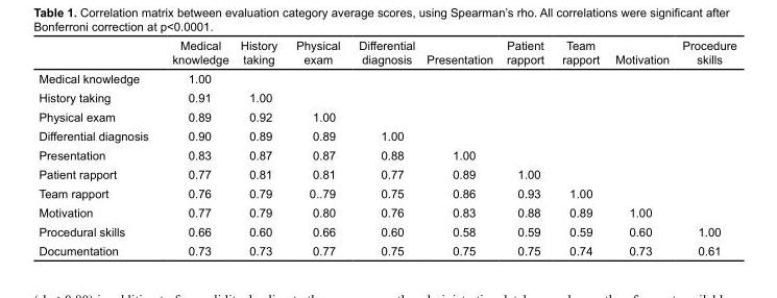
<table><thead><tr><td></td><td>Medical knowledge</td><td>History taking</td><td>Physical exam</td><td>Differential diagnosis</td><td>Presentation</td><td>Patient rapport</td><td>Team rapport</td><td>Motivation</td><td>Procedure skills</td></tr></thead><tbody><tr><td>Medical knowledge</td><td>1.00</td><td></td><td></td><td></td><td></td><td></td><td></td><td></td><td></td></tr><tr><td>History taking</td><td>0.91</td><td>1.00</td><td></td><td></td><td></td><td></td><td></td><td></td><td></td></tr><tr><td>Physical exam</td><td>0.89</td><td>0.92</td><td>1.00</td><td></td><td></td><td></td><td></td><td></td><td></td></tr><tr><td>Differential diagnosis</td><td>0.90</td><td>0.89</td><td>0.89</td><td>1.00</td><td></td><td></td><td></td><td></td><td></td></tr><tr><td>Presentation</td><td>0.83</td><td>0.87</td><td>0.87</td><td>0.88</td><td>1.00</td><td></td><td></td><td></td><td></td></tr><tr><td>Patient rapport</td><td>0.77</td><td>0.81</td><td>0.81</td><td>0.77</td><td>0.89</td><td>1.00</td><td></td><td></td><td></td></tr><tr><td>Team rapport</td><td>0.76</td><td>0.79</td><td>0..79</td><td>0.75</td><td>0.86</td><td>0.93</td><td>1.00</td><td></td><td></td></tr><tr><td>Motivation</td><td>0.77</td><td>0.79</td><td>0.80</td><td>0.76</td><td>0.83</td><td>0.88</td><td>0.89</td><td>1.00</td><td></td></tr><tr><td>Procedural skills</td><td>0.66</td><td>0.60</td><td>0.66</td><td>0.60</td><td>0.58</td><td>0.59</td><td>0.59</td><td>0.60</td><td>1.00</td></tr><tr><td>Documentation</td><td>0.73</td><td>0.73</td><td>0.77</td><td>0.75</td><td>0.75</td><td>0.75</td><td>0.74</td><td>0.73</td><td>0.61</td></tr></tbody></table>